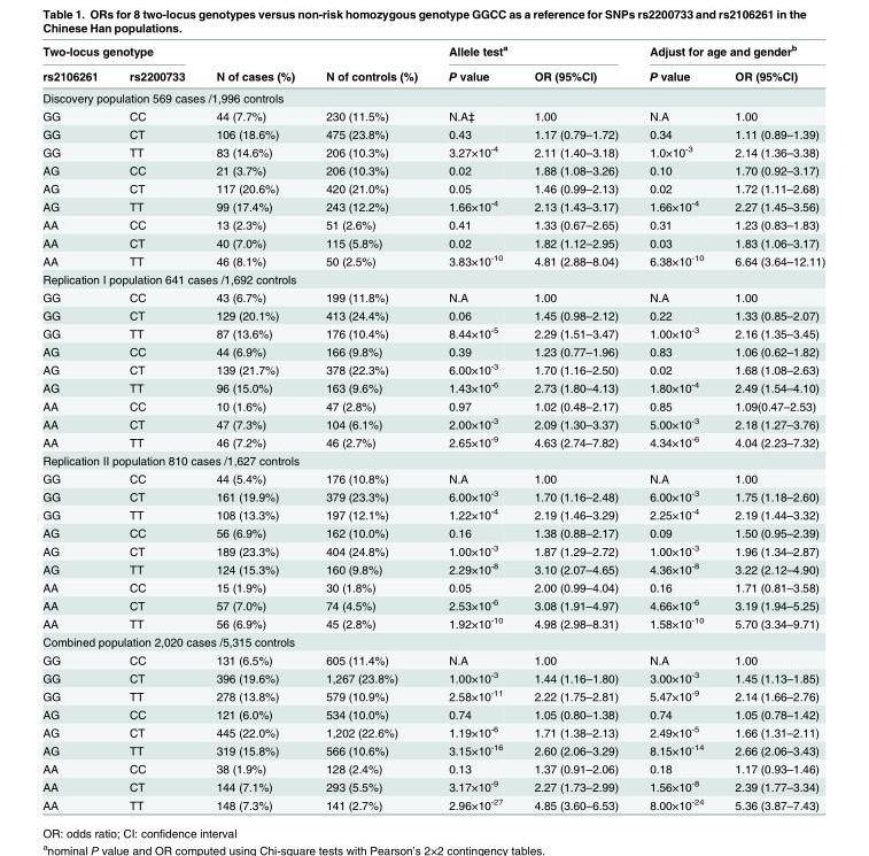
<table><thead><tr><td colspan="2">Two-locus genotype</td><td rowspan="2">N of cases (%)</td><td rowspan="2">N of controls (%)</td><td colspan="2">Allele test<sup>a</sup></td><td colspan="2">Adjust for age and gender<sup>b</sup></td></tr><tr><td>rs2106261</td><td>rs2200733</td><td>P value</td><td>OR (95%CI)</td><td>P value</td><td>OR (95%CI)</td></tr></thead><tbody><tr><td colspan="8">Discovery population 569 cases /1,996 controls</td></tr><tr><td>GG</td><td>CC</td><td>44 (7.7%)</td><td>230 (11.5%)</td><td>N.A‡</td><td>1.00</td><td>N.A</td><td>1.00</td></tr><tr><td>GG</td><td>CT</td><td>106 (18.6%)</td><td>475 (23.8%)</td><td>0.43</td><td>1.17 (0.79–1.72)</td><td>0.34</td><td>1.11 (0.89–1.39)</td></tr><tr><td>GG</td><td>TT</td><td>83 (14.6%)</td><td>206 (10.3%)</td><td>3.27×10<sup>-4</sup></td><td>2.11 (1.40–3.18)</td><td>1.0×10<sup>-3</sup></td><td>2.14 (1.36–3.38)</td></tr><tr><td>AG</td><td>CC</td><td>21 (3.7%)</td><td>206 (10.3%)</td><td>0.02</td><td>1.88 (1.08–3.26)</td><td>0.10</td><td>1.70 (0.92–3.17)</td></tr><tr><td>AG</td><td>CT</td><td>117 (20.6%)</td><td>420 (21.0%)</td><td>0.05</td><td>1.46 (0.99–2.13)</td><td>0.02</td><td>1.72 (1.11–2.68)</td></tr><tr><td>AG</td><td>TT</td><td>99 (17.4%)</td><td>243 (12.2%)</td><td>1.66×10<sup>-4</sup></td><td>2.13 (1.43–3.17)</td><td>1.66×10<sup>-4</sup></td><td>2.27 (1.45–3.56)</td></tr><tr><td>AA</td><td>CC</td><td>13 (2.3%)</td><td>51 (2.6%)</td><td>0.41</td><td>1.33 (0.67–2.65)</td><td>0.31</td><td>1.23 (0.83–1.83)</td></tr><tr><td>AA</td><td>CT</td><td>40 (7.0%)</td><td>115 (5.8%)</td><td>0.02</td><td>1.82 (1.12–2.95)</td><td>0.03</td><td>1.83 (1.06–3.17)</td></tr><tr><td>AA</td><td>TT</td><td>46 (8.1%)</td><td>50 (2.5%)</td><td>3.83×10<sup>-10</sup></td><td>4.81 (2.88–8.04)</td><td>6.38×10<sup>-10</sup></td><td>6.64 (3.64–12.11)</td></tr><tr><td colspan="8">Replication I population 641 cases /1,692 controls</td></tr><tr><td>GG</td><td>CC</td><td>43 (6.7%)</td><td>199 (11.8%)</td><td>N.A</td><td>1.00</td><td>N.A</td><td>1.00</td></tr><tr><td>GG</td><td>CT</td><td>129 (20.1%)</td><td>413 (24.4%)</td><td>0.06</td><td>1.45 (0.98–2.12)</td><td>0.22</td><td>1.33 (0.85–2.07)</td></tr><tr><td>GG</td><td>TT</td><td>87 (13.6%)</td><td>176 (10.4%)</td><td>8.44×10<sup>-5</sup></td><td>2.29 (1.51–3.47)</td><td>1.00×10<sup>-3</sup></td><td>2.16 (1.35–3.45)</td></tr><tr><td>AG</td><td>CC</td><td>44 (6.9%)</td><td>166 (9.8%)</td><td>0.39</td><td>1.23 (0.77–1.96)</td><td>0.83</td><td>1.06 (0.62–1.82)</td></tr><tr><td>AG</td><td>CT</td><td>139 (21.7%)</td><td>378 (22.3%)</td><td>6.00×10<sup>-3</sup></td><td>1.70 (1.16–2.50)</td><td>0.02</td><td>1.68 (1.08–2.63)</td></tr><tr><td>AG</td><td>TT</td><td>96 (15.0%)</td><td>163 (9.6%)</td><td>1.43×10<sup>-6</sup></td><td>2.73 (1.80–4.13)</td><td>1.80×10<sup>-4</sup></td><td>2.49 (1.54–4.10)</td></tr><tr><td>AA</td><td>CC</td><td>10 (1.6%)</td><td>47 (2.8%)</td><td>0.97</td><td>1.02 (0.48–2.17)</td><td>0.85</td><td>1.09(0.47–2.53)</td></tr><tr><td>AA</td><td>CT</td><td>47 (7.3%)</td><td>104 (6.1%)</td><td>2.00×10<sup>-3</sup></td><td>2.09 (1.30–3.37)</td><td>5.00×10<sup>-3</sup></td><td>2.18 (1.27–3.76)</td></tr><tr><td>AA</td><td>TT</td><td>46 (7.2%)</td><td>46 (2.7%)</td><td>2.65×10<sup>-9</sup></td><td>4.63 (2.74–7.82)</td><td>4.34×10<sup>-6</sup></td><td>4.04 (2.23–7.32)</td></tr><tr><td colspan="8">Replication II population 810 cases /1,627 controls</td></tr><tr><td>GG</td><td>CC</td><td>44 (5.4%)</td><td>176 (10.8%)</td><td>N.A</td><td>1.00</td><td>N.A</td><td>1.00</td></tr><tr><td>GG</td><td>CT</td><td>161 (19.9%)</td><td>379 (23.3%)</td><td>6.00×10<sup>-3</sup></td><td>1.70 (1.16–2.48)</td><td>6.00×10<sup>-3</sup></td><td>1.75 (1.18–2.60)</td></tr><tr><td>GG</td><td>TT</td><td>108 (13.3%)</td><td>197 (12.1%)</td><td>1.22×10<sup>-4</sup></td><td>2.19 (1.46–3.29)</td><td>2.25×10<sup>-4</sup></td><td>2.19 (1.44–3.32)</td></tr><tr><td>AG</td><td>CC</td><td>56 (6.9%)</td><td>162 (10.0%)</td><td>0.16</td><td>1.38 (0.88–2.17)</td><td>0.09</td><td>1.50 (0.95–2.39)</td></tr><tr><td>AG</td><td>CT</td><td>189 (23.3%)</td><td>404 (24.8%)</td><td>1.00×10<sup>-3</sup></td><td>1.87 (1.29–2.72)</td><td>1.00×10<sup>-3</sup></td><td>1.96 (1.34–2.87)</td></tr><tr><td>AG</td><td>TT</td><td>124 (15.3%)</td><td>160 (9.8%)</td><td>2.29×10<sup>-8</sup></td><td>3.10 (2.07–4.65)</td><td>4.36×10<sup>-8</sup></td><td>3.22 (2.12–4.90)</td></tr><tr><td>AA</td><td>CC</td><td>15 (1.9%)</td><td>30 (1.8%)</td><td>0.05</td><td>2.00 (0.99–4.04)</td><td>0.16</td><td>1.71 (0.81–3.58)</td></tr><tr><td>AA</td><td>CT</td><td>57 (7.0%)</td><td>74 (4.5%)</td><td>2.53×10<sup>-6</sup></td><td>3.08 (1.91–4.97)</td><td>4.66×10<sup>-6</sup></td><td>3.19 (1.94–5.25)</td></tr><tr><td>AA</td><td>TT</td><td>56 (6.9%)</td><td>45 (2.8%)</td><td>1.92×10<sup>-10</sup></td><td>4.98 (2.98–8.31)</td><td>1.58×10<sup>-10</sup></td><td>5.70 (3.34–9.71)</td></tr><tr><td colspan="8">Combined population 2,020 cases /5,315 controls</td></tr><tr><td>GG</td><td>CC</td><td>131 (6.5%)</td><td>605 (11.4%)</td><td>N.A</td><td>1.00</td><td>N.A</td><td>1.00</td></tr><tr><td>GG</td><td>CT</td><td>396 (19.6%)</td><td>1,267 (23.8%)</td><td>1.00×10<sup>-3</sup></td><td>1.44 (1.16–1.80)</td><td>3.00×10<sup>-3</sup></td><td>1.45 (1.13–1.85)</td></tr><tr><td>GG</td><td>TT</td><td>278 (13.8%)</td><td>579 (10.9%)</td><td>2.58×10<sup>-11</sup></td><td>2.22 (1.75–2.81)</td><td>5.47×10<sup>-9</sup></td><td>2.14 (1.66–2.76)</td></tr><tr><td>AG</td><td>CC</td><td>121 (6.0%)</td><td>534 (10.0%)</td><td>0.74</td><td>1.05 (0.80–1.38)</td><td>0.74</td><td>1.05 (0.78–1.42)</td></tr><tr><td>AG</td><td>CT</td><td>445 (22.0%)</td><td>1,202 (22.6%)</td><td>1.19×10<sup>-6</sup></td><td>1.71 (1.38–2.13)</td><td>2.49×10<sup>-5</sup></td><td>1.66 (1.31–2.11)</td></tr><tr><td>AG</td><td>TT</td><td>319 (15.8%)</td><td>566 (10.6%)</td><td>3.15×10<sup>-16</sup></td><td>2.60 (2.06–3.29)</td><td>8.15×10<sup>-14</sup></td><td>2.66 (2.06–3.43)</td></tr><tr><td>AA</td><td>CC</td><td>38 (1.9%)</td><td>128 (2.4%)</td><td>0.13</td><td>1.37 (0.91–2.06)</td><td>0.18</td><td>1.17 (0.93–1.46)</td></tr><tr><td>AA</td><td>CT</td><td>144 (7.1%)</td><td>293 (5.5%)</td><td>3.17×10<sup>-9</sup></td><td>2.27 (1.73–2.99)</td><td>1.56×10<sup>-8</sup></td><td>2.39 (1.77–3.34)</td></tr><tr><td>AA</td><td>TT</td><td>148 (7.3%)</td><td>141 (2.7%)</td><td>2.96×10<sup>-27</sup></td><td>4.85 (3.60–6.53)</td><td>8.00×10<sup>-24</sup></td><td>5.36 (3.87–7.43)</td></tr></tbody></table>